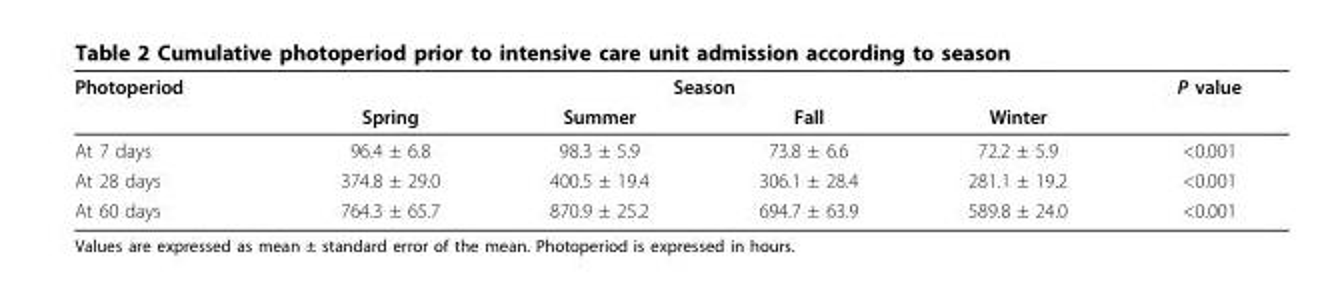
<table><thead><tr><td rowspan="2">Photoperiod</td><td colspan="4">Season</td><td rowspan="2">P value</td></tr><tr><td>Spring</td><td>Summer</td><td>Fall</td><td>Winter</td></tr></thead><tbody><tr><td>At 7 days</td><td>96.4 ± 6.8</td><td>98.3 ± 5.9</td><td>73.8 ± 6.6</td><td>72.2 ± 5.9</td><td>&lt;0.001</td></tr><tr><td>At 28 days</td><td>374.8 ± 29.0</td><td>400.5 ± 19.4</td><td>306.1 ± 28.4</td><td>281.1 ± 19.2</td><td>&lt;0.001</td></tr><tr><td>At 60 days</td><td>764.3 ± 65.7</td><td>870.9 ± 25.2</td><td>694.7 ± 63.9</td><td>589.8 ± 24.0</td><td>&lt;0.001</td></tr></tbody></table>